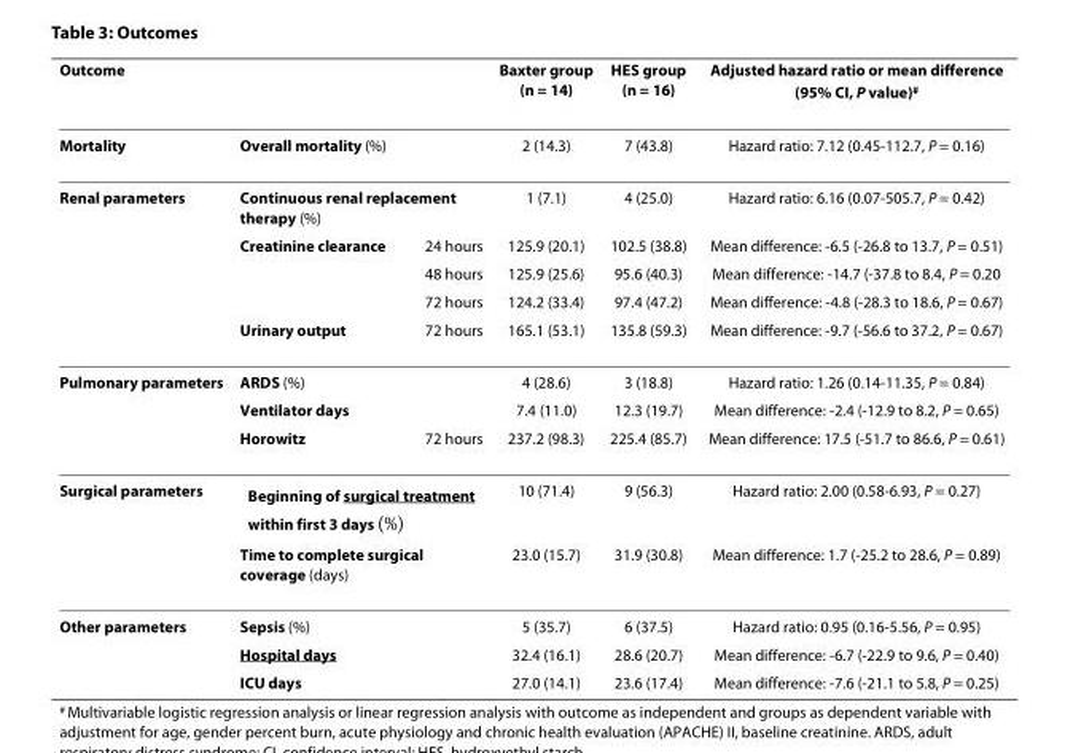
<table><thead><tr><td>Outcome</td><td></td><td></td><td>Baxter group (n = 14)</td><td>HES group (n = 16)</td><td>Adjusted hazard ratio or mean difference (95% CI, P value)<sup>#</sup></td></tr></thead><tbody><tr><td>Mortality</td><td colspan="2">Overall mortality (%)</td><td>2 (14.3)</td><td>7 (43.8)</td><td>Hazard ratio: 7.12 (0.45-112.7, P = 0.16)</td></tr><tr><td rowspan="5">Renal parameters</td><td colspan="2">Continuous renal replacement therapy (%)</td><td>1 (7.1)</td><td>4 (25.0)</td><td>Hazard ratio: 6.16 (0.07-505.7, P = 0.42)</td></tr><tr><td>Creatinine clearance</td><td>24 hours</td><td>125.9 (20.1)</td><td>102.5 (38.8)</td><td>Mean difference: -6.5 (-26.8 to 13.7, P = 0.51)</td></tr><tr><td></td><td>48 hours</td><td>125.9 (25.6)</td><td>95.6 (40.3)</td><td>Mean difference: -14.7 (-37.8 to 8.4, P = 0.20</td></tr><tr><td></td><td>72 hours</td><td>124.2 (33.4)</td><td>97.4 (47.2)</td><td>Mean difference: -4.8 (-28.3 to 18.6, P = 0.67)</td></tr><tr><td>Urinary output</td><td>72 hours</td><td>165.1 (53.1)</td><td>135.8 (59.3)</td><td>Mean difference: -9.7 (-56.6 to 37.2, P = 0.67)</td></tr><tr><td rowspan="3">Pulmonary parameters</td><td colspan="2">ARDS (%)</td><td>4 (28.6)</td><td>3 (18.8)</td><td>Hazard ratio: 1.26 (0.14-11.35, P = 0.84)</td></tr><tr><td colspan="2">Ventilator days</td><td>7.4 (11.0)</td><td>12.3 (19.7)</td><td>Mean difference: -2.4 (-12.9 to 8.2, P = 0.65)</td></tr><tr><td>Horowitz</td><td>72 hours</td><td>237.2 (98.3)</td><td>225.4 (85.7)</td><td>Mean difference: 17.5 (-51.7 to 86.6, P = 0.61)</td></tr><tr><td rowspan="2">Surgical parameters</td><td colspan="2">Beginning of surgical treatment within first 3 days (%)</td><td>10 (71.4)</td><td>9 (56.3)</td><td>Hazard ratio: 2.00 (0.58-6.93, P = 0.27)</td></tr><tr><td colspan="2">Time to complete surgical coverage (days)</td><td>23.0 (15.7)</td><td>31.9 (30.8)</td><td>Mean difference: 1.7 (-25.2 to 28.6, P = 0.89)</td></tr><tr><td rowspan="3">Other parameters</td><td colspan="2">Sepsis (%)</td><td>5 (35.7)</td><td>6 (37.5)</td><td>Hazard ratio: 0.95 (0.16-5.56, P = 0.95)</td></tr><tr><td colspan="2">Hospital days</td><td>32.4 (16.1)</td><td>28.6 (20.7)</td><td>Mean difference: -6.7 (-22.9 to 9.6, P = 0.40)</td></tr><tr><td colspan="2">ICU days</td><td>27.0 (14.1)</td><td>23.6 (17.4)</td><td>Mean difference: -7.6 (-21.1 to 5.8, P = 0.25)</td></tr></tbody></table>